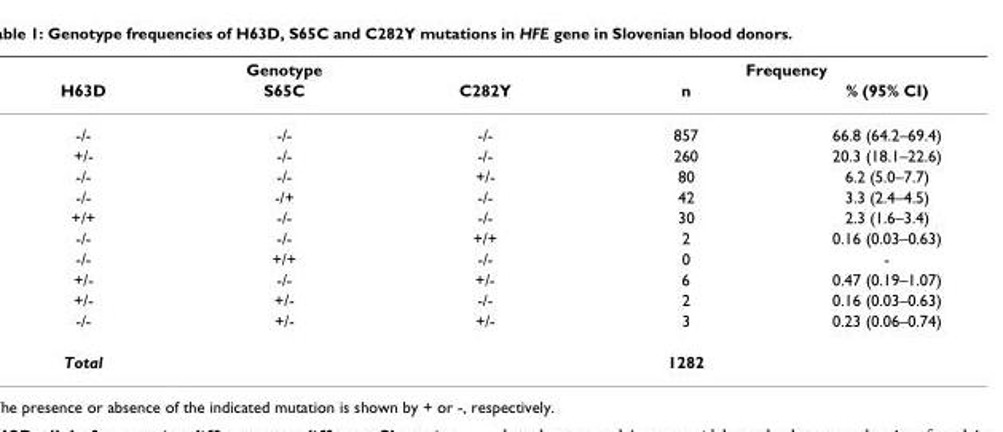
<table><thead><tr><td colspan="3">Genotype</td><td colspan="2">Frequency</td></tr><tr><td>H63D</td><td>S65C</td><td>C282Y</td><td>n</td><td>% (95% CI)</td></tr></thead><tbody><tr><td>-/-</td><td>-/-</td><td>-/-</td><td>857</td><td>66.8 (64.2–69.4)</td></tr><tr><td>+/-</td><td>-/-</td><td>-/-</td><td>260</td><td>20.3 (18.1–22.6)</td></tr><tr><td>-/-</td><td>-/-</td><td>+/-</td><td>80</td><td>6.2 (5.0–7.7)</td></tr><tr><td>-/-</td><td>-/+</td><td>-/-</td><td>42</td><td>3.3 (2.4–4.5)</td></tr><tr><td>+/+</td><td>-/-</td><td>-/-</td><td>30</td><td>2.3 (1.6–3.4)</td></tr><tr><td>-/-</td><td>-/-</td><td>+/+</td><td>2</td><td>0.16 (0.03–0.63)</td></tr><tr><td>-/-</td><td>+/+</td><td>-/-</td><td>0</td><td>-</td></tr><tr><td>+/-</td><td>-/-</td><td>+/-</td><td>6</td><td>0.47 (0.19–1.07)</td></tr><tr><td>+/-</td><td>+/-</td><td>-/-</td><td>2</td><td>0.16 (0.03–0.63)</td></tr><tr><td>-/-</td><td>+/-</td><td>+/-</td><td>3</td><td>0.23 (0.06–0.74)</td></tr><tr><td>Total</td><td></td><td></td><td>1282</td><td></td></tr></tbody></table>